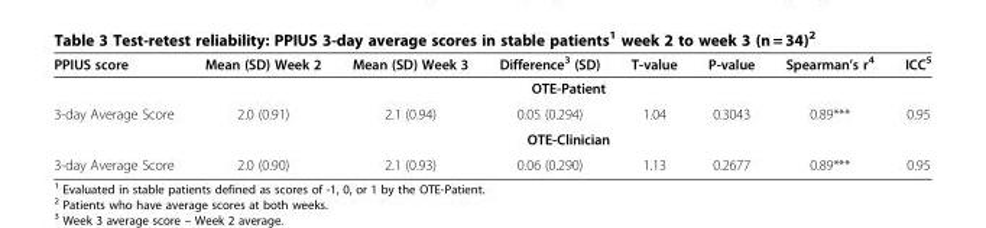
<table><thead><tr><td>PPIUS score</td><td>Mean (SD) Week 2</td><td>Mean (SD) Week 3</td><td>Difference<sup>3</sup> (SD)</td><td>T-value</td><td>P-value</td><td>Spearman’s r<sup>4</sup></td><td>ICC<sup>5</sup></td></tr></thead><tbody><tr><td></td><td colspan="7">OTE-Patient</td></tr><tr><td rowspan="2">3-day Average Score</td><td>2.0 (0.91)</td><td>2.1 (0.94)</td><td>0.05 (0.294)</td><td>1.04</td><td>0.3043</td><td>0.89***</td><td>0.95</td></tr><tr><td colspan="7">OTE-Clinician</td></tr><tr><td>3-day Average Score</td><td>2.0 (0.90)</td><td>2.1 (0.93)</td><td>0.06 (0.290)</td><td>1.13</td><td>0.2677</td><td>0.89***</td><td>0.95</td></tr></tbody></table>